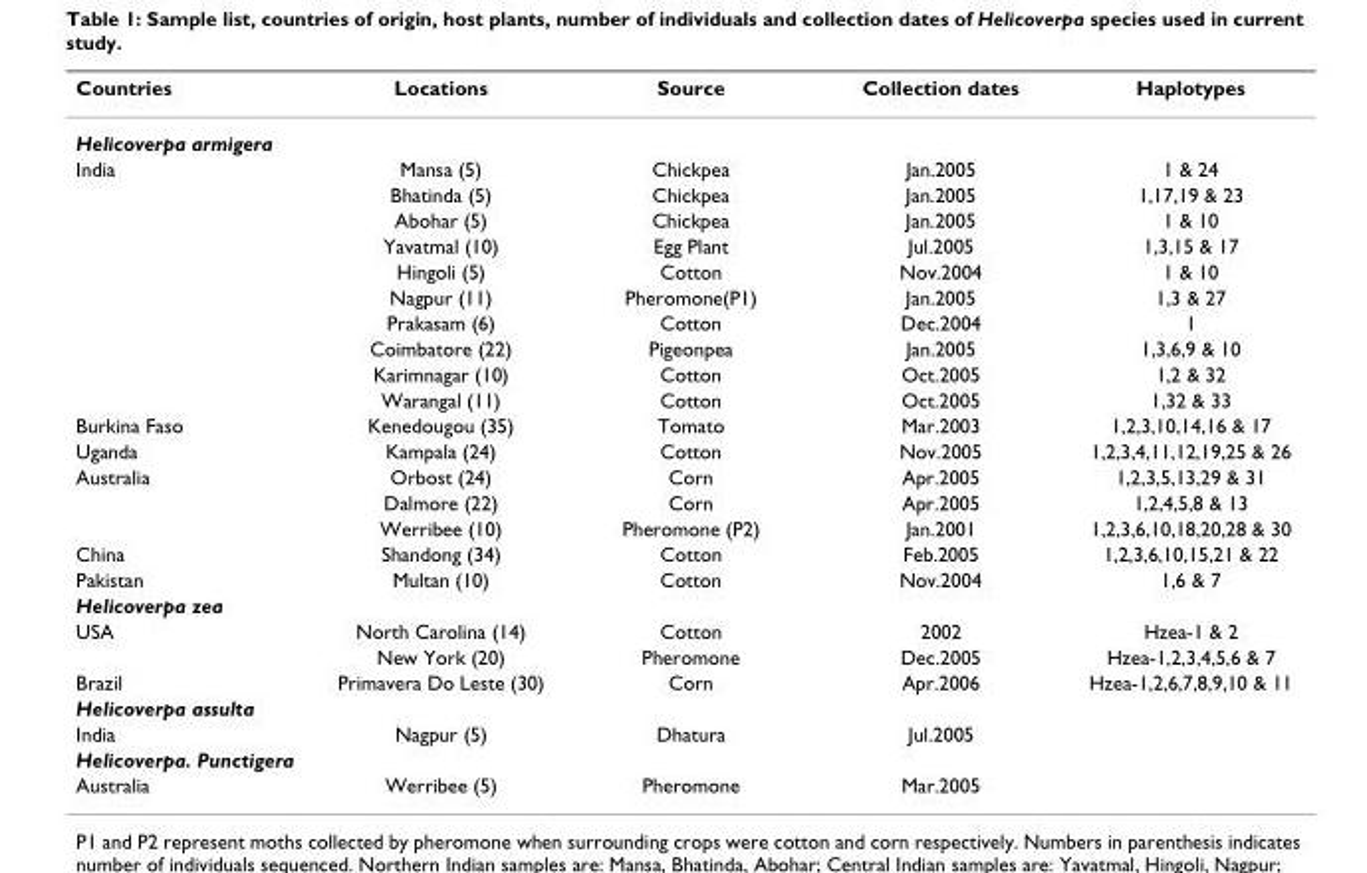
<table><thead><tr><td>Countries</td><td>Locations</td><td>Source</td><td>Collection dates</td><td>Haplotypes</td></tr></thead><tbody><tr><td colspan="5">Helicoverpa armigera</td></tr><tr><td rowspan="10">India</td><td>Mansa (5)</td><td>Chickpea</td><td>Jan.2005</td><td>1 &amp; 24</td></tr><tr><td>Bhatinda (5)</td><td>Chickpea</td><td>Jan.2005</td><td>1,17,19 &amp; 23</td></tr><tr><td>Abohar (5)</td><td>Chickpea</td><td>Jan.2005</td><td>1 &amp; 10</td></tr><tr><td>Yavatmal (10)</td><td>Egg Plant</td><td>Jul.2005</td><td>1,3,15 &amp; 17</td></tr><tr><td>Hingoli (5)</td><td>Cotton</td><td>Nov.2004</td><td>1 &amp; 10</td></tr><tr><td>Nagpur (11)</td><td>Pheromone(P1)</td><td>Jan.2005</td><td>1,3 &amp; 27</td></tr><tr><td>Prakasam (6)</td><td>Cotton</td><td>Dec.2004</td><td>1</td></tr><tr><td>Coimbatore (22)</td><td>Pigeonpea</td><td>Jan.2005</td><td>1,3,6,9 &amp; 10</td></tr><tr><td>Karimnagar (10)</td><td>Cotton</td><td>Oct.2005</td><td>1,2 &amp; 32</td></tr><tr><td>Warangal (11)</td><td>Cotton</td><td>Oct.2005</td><td>1,32 &amp; 33</td></tr><tr><td>Burkina Faso</td><td>Kenedougou (35)</td><td>Tomato</td><td>Mar.2003</td><td>1,2,3,10,14,16 &amp; 17</td></tr><tr><td>Uganda</td><td>Kampala (24)</td><td>Cotton</td><td>Nov.2005</td><td>1,2,3,4,11,12,19,25 &amp; 26</td></tr><tr><td rowspan="3">Australia</td><td>Orbost (24)</td><td>Corn</td><td>Apr.2005</td><td>1,2,3,5,13,29 &amp; 31</td></tr><tr><td>Dalmore (22)</td><td>Corn</td><td>Apr.2005</td><td>1,2,4,5,8 &amp; 13</td></tr><tr><td>Werribee (10)</td><td>Pheromone (P2)</td><td>Jan.2001</td><td>1,2,3,6,10,18,20,28 &amp; 30</td></tr><tr><td>China</td><td>Shandong (34)</td><td>Cotton</td><td>Feb.2005</td><td>1,2,3,6,10,15,21 &amp; 22</td></tr><tr><td>Pakistan</td><td>Multan (10)</td><td>Cotton</td><td>Nov.2004</td><td>1,6 &amp; 7</td></tr><tr><td colspan="5">Helicoverpa zea</td></tr><tr><td rowspan="2">USA</td><td>North Carolina (14)</td><td>Cotton</td><td>2002</td><td>Hzea-1 &amp; 2</td></tr><tr><td>New York (20)</td><td>Pheromone</td><td>Dec.2005</td><td>Hzea-1,2,3,4,5,6 &amp; 7</td></tr><tr><td>Brazil</td><td>Primavera Do Leste (30)</td><td>Corn</td><td>Apr.2006</td><td>Hzea-1,2,6,7,8,9,10 &amp; 11</td></tr><tr><td colspan="5">Helicoverpa assulta</td></tr><tr><td>India</td><td>Nagpur (5)</td><td>Dhatura</td><td>Jul.2005</td><td></td></tr><tr><td colspan="5">Helicoverpa. Punctigera</td></tr><tr><td>Australia</td><td>Werribee (5)</td><td>Pheromone</td><td>Mar.2005</td><td></td></tr></tbody></table>